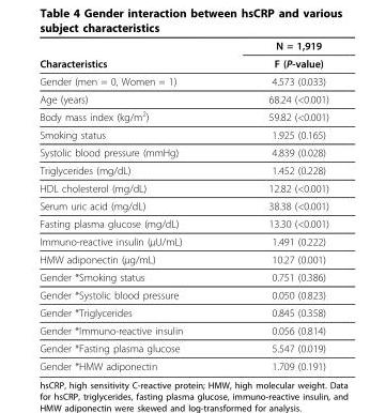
<table><thead><tr><td rowspan="2">Characteristics</td><td rowspan="2">N = 1,919 F (P-value)</td></tr><tr></tr></thead><tbody><tr><td>Gender (men = 0, Women = 1)</td><td>4.573 (0.033)</td></tr><tr><td>Age (years)</td><td>68.24 (&lt;0.001)</td></tr><tr><td>Body mass index (kg/m<sup>2</sup>)</td><td>59.82 (&lt;0.001)</td></tr><tr><td>Smoking status</td><td>1.925 (0.165)</td></tr><tr><td>Systolic blood pressure (mmHg)</td><td>4.839 (0.028)</td></tr><tr><td>Triglycerides (mg/dL)</td><td>1.452 (0.228)</td></tr><tr><td>HDL cholesterol (mg/dL)</td><td>12.82 (&lt;0.001)</td></tr><tr><td>Serum uric acid (mg/dL)</td><td>38.38 (&lt;0.001)</td></tr><tr><td>Fasting plasma glucose (mg/dL)</td><td>13.30 (&lt;0.001)</td></tr><tr><td>Immuno-reactive insulin (μU/mL)</td><td>1.491 (0.222)</td></tr><tr><td>HMW adiponectin (μg/mL)</td><td>10.27 (0.001)</td></tr><tr><td>Gender *Smoking status</td><td>0.751 (0.386)</td></tr><tr><td>Gender *Systolic blood pressure</td><td>0.050 (0.823)</td></tr><tr><td>Gender *Triglycerides</td><td>0.845 (0.358)</td></tr><tr><td>Gender *Immuno-reactive insulin</td><td>0.056 (0.814)</td></tr><tr><td>Gender *Fasting plasma glucose</td><td>5.547 (0.019)</td></tr><tr><td>Gender *HMW adiponectin</td><td>1.709 (0.191)</td></tr></tbody></table>